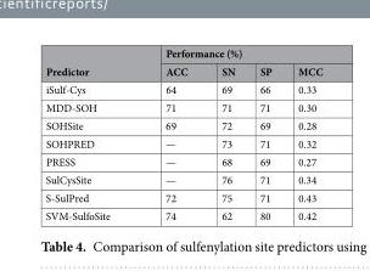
<table><thead><tr><td rowspan="2">Predictor</td><td colspan="4">Performance (%)</td></tr><tr><td>ACC</td><td>SN</td><td>SP</td><td>MCC</td></tr></thead><tbody><tr><td>iSulf-Cys</td><td>64</td><td>69</td><td>66</td><td>0.33</td></tr><tr><td>MDD-SOH</td><td>71</td><td>71</td><td>71</td><td>0.30</td></tr><tr><td>SOHSite</td><td>69</td><td>72</td><td>69</td><td>0.28</td></tr><tr><td>SOHPRED</td><td>—</td><td>73</td><td>71</td><td>0.32</td></tr><tr><td>PRESS</td><td>—</td><td>68</td><td>69</td><td>0.27</td></tr><tr><td>SulCysSite</td><td>—</td><td>76</td><td>71</td><td>0.34</td></tr><tr><td>S-SulPred</td><td>72</td><td>75</td><td>71</td><td>0.43</td></tr><tr><td>SVM-SulfoSite</td><td>74</td><td>62</td><td>80</td><td>0.42</td></tr></tbody></table>